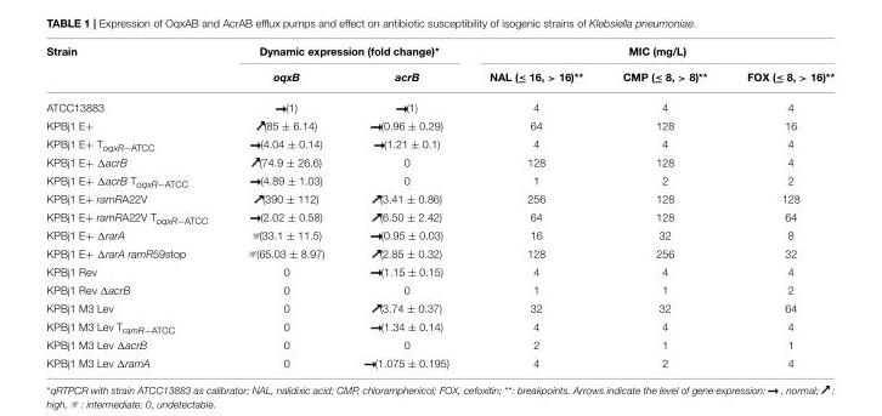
<table><thead><tr><td rowspan="2">Strain</td><td colspan="2">Dynamic expression (fold change)*</td><td colspan="3">MIC (mg/L)</td></tr><tr><td>oqxB</td><td>acrB</td><td>NAL (≤ 16, &gt; 16)**</td><td>CMP (≤ 8, &gt; 8)**</td><td>FOX (≤ 8, &gt; 16)**</td></tr></thead><tbody><tr><td>ATCC13883</td><td>(1)</td><td>(1)</td><td>4</td><td>4</td><td>4</td></tr><tr><td>KPBj1 E+</td><td>(85 ± 6.14)</td><td>(0.96 ± 0.29)</td><td>64</td><td>128</td><td>16</td></tr><tr><td>KPBj1 E+ T<sub>oqxR−ATCC</sub></td><td>(4.04 ± 0.14)</td><td>(1.21 ± 0.1)</td><td>4</td><td>4</td><td>4</td></tr><tr><td>KPBj1 E+ ΔacrB</td><td>(74.9 ± 26.6)</td><td>0</td><td>128</td><td>128</td><td>4</td></tr><tr><td>KPBj1 E+ ΔacrB T<sub>oqxR−ATCC</sub></td><td>(4.89 ± 1.03)</td><td>0</td><td>1</td><td>2</td><td>2</td></tr><tr><td>KPBj1 E+ ramRA22V</td><td>(390 ± 112)</td><td>(3.41 ± 0.86)</td><td>256</td><td>128</td><td>128</td></tr><tr><td>KPBj1 E+ ramRA22V T<sub>oqxR−ATCC</sub></td><td>(2.02 ± 0.58)</td><td>(6.50 ± 2.42)</td><td>64</td><td>128</td><td>64</td></tr><tr><td>KPBj1 E+ ΔrarA</td><td>(33.1 ± 11.5)</td><td>(0.95 ± 0.03)</td><td>16</td><td>32</td><td>8</td></tr><tr><td>KPBj1 E+ ΔrarA ramR59stop</td><td>(65.03 ± 8.97)</td><td>(2.85 ± 0.32)</td><td>128</td><td>256</td><td>32</td></tr><tr><td>KPBj1 Rev</td><td>0</td><td>(1.15 ± 0.15)</td><td>4</td><td>4</td><td>4</td></tr><tr><td>KPBj1 Rev ΔacrB</td><td>0</td><td>0</td><td>1</td><td>1</td><td>2</td></tr><tr><td>KPBj1 M3 Lev</td><td>0</td><td>(3.74 ± 0.37)</td><td>32</td><td>32</td><td>64</td></tr><tr><td>KPBj1 M3 Lev T<sub>ramR−ATCC</sub></td><td>0</td><td>(1.34 ± 0.14)</td><td>4</td><td>4</td><td>4</td></tr><tr><td>KPBj1 M3 Lev ΔacrB</td><td>0</td><td>0</td><td>2</td><td>1</td><td>1</td></tr><tr><td>KPBj1 M3 Lev ΔramA</td><td>0</td><td>(1.075 ± 0.195)</td><td>4</td><td>2</td><td>4</td></tr></tbody></table>